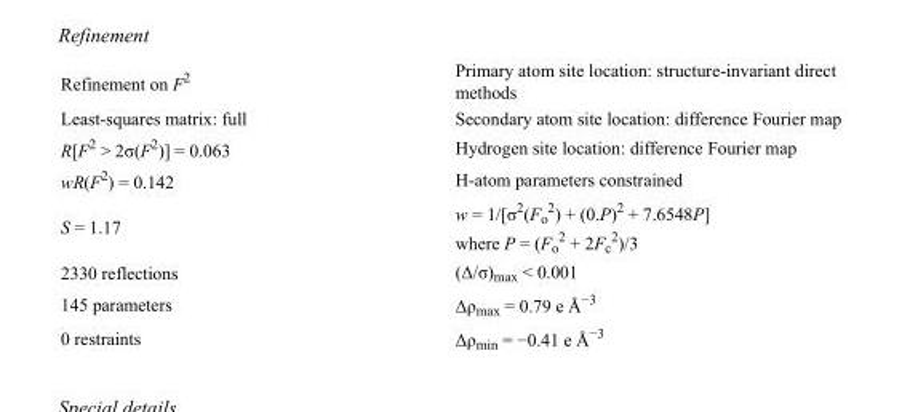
<table><tbody><tr><td>Refinement on F<sup>2</sup></td><td>Primary atom site location: structure-invariant direct methods</td></tr><tr><td>Least-squares matrix: full</td><td>Secondary atom site location: difference Fourier map</td></tr><tr><td>R[F<sup>2</sup> &gt; 2σ(F<sup>2</sup>)] = 0.063</td><td>Hydrogen site location: difference Fourier map</td></tr><tr><td>wR(F<sup>2</sup>) = 0.142</td><td>H-atom parameters constrained</td></tr><tr><td>S = 1.17</td><td>w = 1/[σ<sup>2</sup>(F<sub>o</sub> <sup>2</sup>) + (0.P)<sup>2</sup> + 7.6548P] where P = (F<sub>o</sub> <sup>2</sup> + 2F<sub>c</sub> <sup>2</sup>)/3</td></tr><tr><td>2330 reflections</td><td>(Δ/σ)<sub>max</sub> &lt; 0.001</td></tr><tr><td>145 parameters</td><td>Δρ<sub>max</sub> = 0.79 e Å<sup>−3</sup></td></tr><tr><td>0 restraints</td><td>Δρ<sub>min</sub> = −0.41 e Å<sup>−3</sup></td></tr></tbody></table>